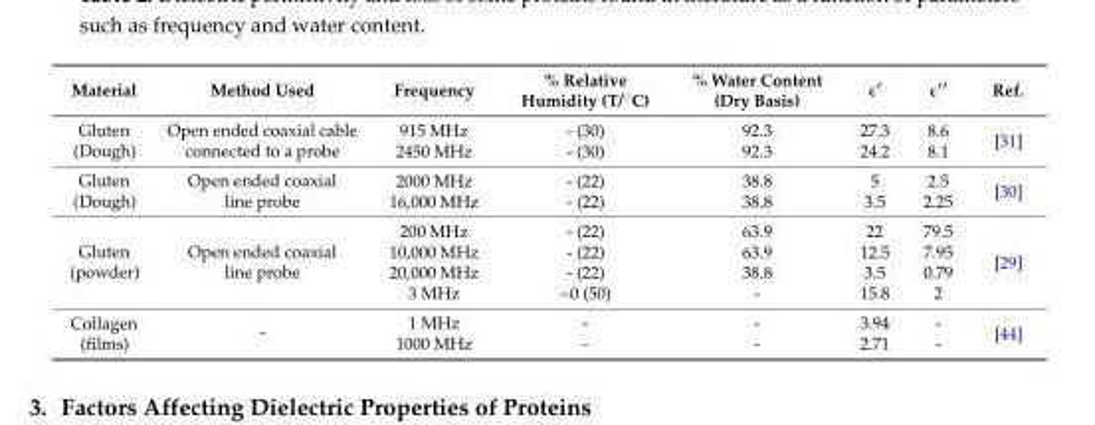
<table><thead><tr><td>Material</td><td>Method Used</td><td>Frequency</td><td>% Relative Humidity (T/˝C)</td><td>% Water Content (Dry Basis)</td><td>ε′</td><td>ε11</td><td>Ref.</td></tr></thead><tbody><tr><td rowspan="2">Gluten (Dough)</td><td rowspan="2">Open ended coaxial cable connected to a probe</td><td>915 MHz</td><td>- (30)</td><td>92.3</td><td>27.3</td><td>8.6</td><td rowspan="2">[31]</td></tr><tr><td>2450 MHz</td><td>- (30)</td><td>92.3</td><td>24.2</td><td>8.1</td></tr><tr><td rowspan="2">Gluten (Dough)</td><td rowspan="2">Open ended coaxial line probe</td><td>2000 MHz</td><td>- (22)</td><td>38.8</td><td>5</td><td>2.5</td><td rowspan="2">[30]</td></tr><tr><td>16,000 MHz</td><td>- (22)</td><td>38.8</td><td>3.5</td><td>2.25</td></tr><tr><td rowspan="4">Gluten (powder)</td><td rowspan="4">Open ended coaxial line probe</td><td>200 MHz</td><td>- (22)</td><td>63.9</td><td>22</td><td>79.5</td><td rowspan="4">[29]</td></tr><tr><td>10,000 MHz</td><td>- (22)</td><td>63.9</td><td>12.5</td><td>7.95</td></tr><tr><td>20,000 MHz</td><td>- (22)</td><td>38.8</td><td>3.5</td><td>0.79</td></tr><tr><td>3 MHz</td><td>~0 (50)</td><td>-</td><td>15.8</td><td>2</td></tr><tr><td rowspan="2">Collagen (films)</td><td rowspan="2">-</td><td>1 MHz</td><td>-</td><td>-</td><td>3.94</td><td>-</td><td rowspan="2">[44]</td></tr><tr><td>1000 MHz</td><td>-</td><td>-</td><td>2.71</td><td>-</td></tr></tbody></table>